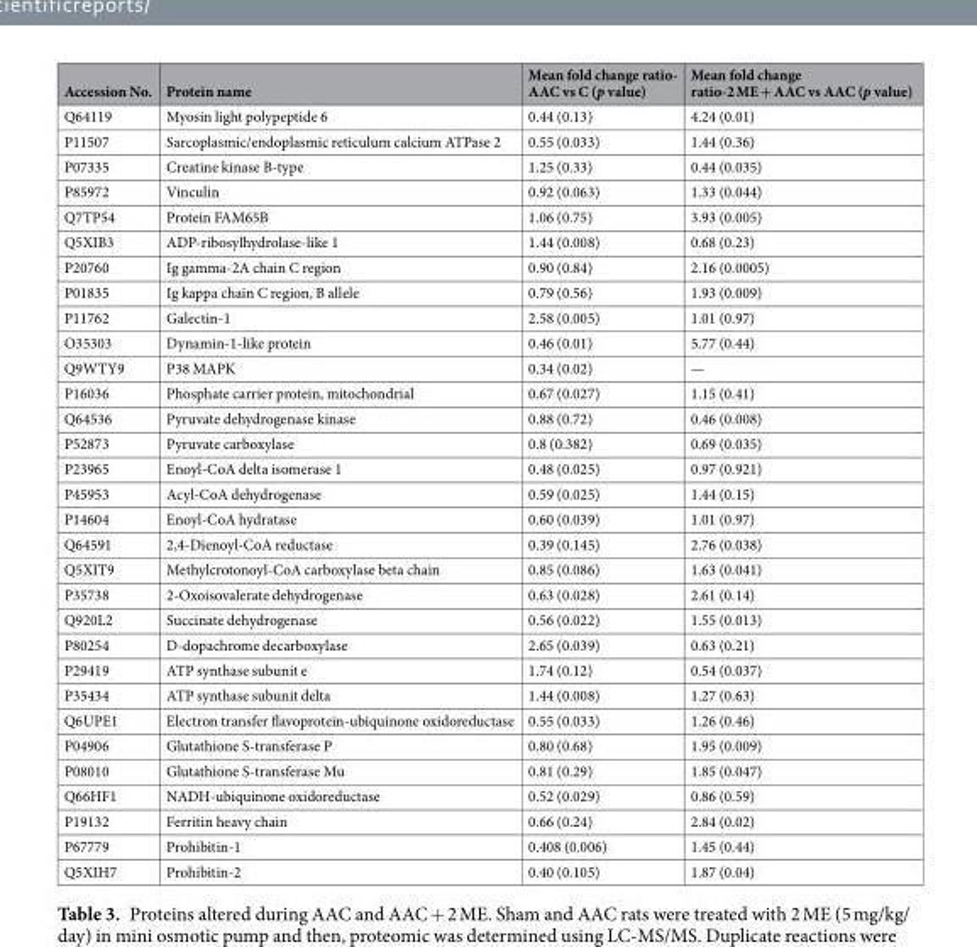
<table><thead><tr><td>Accession No.</td><td>Protein name</td><td>Mean fold change ratio- AAC vs C (p value)</td><td>Mean fold change ratio-2 ME + AAC vs AAC (p value)</td></tr></thead><tbody><tr><td>Q64119</td><td>Myosin light polypeptide 6</td><td>0.44 (0.13)</td><td>4.24 (0.01)</td></tr><tr><td>P11507</td><td>Sarcoplasmic/endoplasmic reticulum calcium ATPase 2</td><td>0.55 (0.033)</td><td>1.44 (0.36)</td></tr><tr><td>P07335</td><td>Creatine kinase B-type</td><td>1.25 (0.33)</td><td>0.44 (0.035)</td></tr><tr><td>P85972</td><td>Vinculin</td><td>0.92 (0.063)</td><td>1.33 (0.044)</td></tr><tr><td>Q7TP54</td><td>Protein FAM65B</td><td>1.06 (0.75)</td><td>3.93 (0.005)</td></tr><tr><td>Q5XIB3</td><td>ADP-ribosylhydrolase-like 1</td><td>1.44 (0.008)</td><td>0.68 (0.23)</td></tr><tr><td>P20760</td><td>Ig gamma-2A chain C region</td><td>0.90 (0.84)</td><td>2.16 (0.0005)</td></tr><tr><td>P01835</td><td>Ig kappa chain C region, B allele</td><td>0.79 (0.56)</td><td>1.93 (0.009)</td></tr><tr><td>P11762</td><td>Galectin-1</td><td>2.58 (0.005)</td><td>1.01 (0.97)</td></tr><tr><td>O35303</td><td>Dynamin-1-like protein</td><td>0.46 (0.01)</td><td>5.77 (0.44)</td></tr><tr><td>Q9WTY9</td><td>P38 MAPK</td><td>0.34 (0.02)</td><td>—</td></tr><tr><td>P16036</td><td>Phosphate carrier protein, mitochondrial</td><td>0.67 (0.027)</td><td>1.15 (0.41)</td></tr><tr><td>Q64536</td><td>Pyruvate dehydrogenase kinase</td><td>0.88 (0.72)</td><td>0.46 (0.008)</td></tr><tr><td>P52873</td><td>Pyruvate carboxylase</td><td>0.8 (0.382)</td><td>0.69 (0.035)</td></tr><tr><td>P23965</td><td>Enoyl-CoA delta isomerase 1</td><td>0.48 (0.025)</td><td>0.97 (0.921)</td></tr><tr><td>P45953</td><td>Acyl-CoA dehydrogenase</td><td>0.59 (0.025)</td><td>1.44 (0.15)</td></tr><tr><td>P14604</td><td>Enoyl-CoA hydratase</td><td>0.60 (0.039)</td><td>1.01 (0.97)</td></tr><tr><td>Q64591</td><td>2,4-Dienoyl-CoA reductase</td><td>0.39 (0.145)</td><td>2.76 (0.038)</td></tr><tr><td>Q5XIT9</td><td>Methylcrotonoyl-CoA carboxylase beta chain</td><td>0.85 (0.086)</td><td>1.63 (0.041)</td></tr><tr><td>P35738</td><td>2-Oxoisovalerate dehydrogenase</td><td>0.63 (0.028)</td><td>2.61 (0.14)</td></tr><tr><td>Q920L2</td><td>Succinate dehydrogenase</td><td>0.56 (0.022)</td><td>1.55 (0.013)</td></tr><tr><td>P80254</td><td>D-dopachrome decarboxylase</td><td>2.65 (0.039)</td><td>0.63 (0.21)</td></tr><tr><td>P29419</td><td>ATP synthase subunit e</td><td>1.74 (0.12)</td><td>0.54 (0.037)</td></tr><tr><td>P35434</td><td>ATP synthase subunit delta</td><td>1.44 (0.008)</td><td>1.27 (0.63)</td></tr><tr><td>Q6UPE1</td><td>Electron transfer flavoprotein-ubiquinone oxidoreductase</td><td>0.55 (0.033)</td><td>1.26 (0.46)</td></tr><tr><td>P04906</td><td>Glutathione S-transferase P</td><td>0.80 (0.68)</td><td>1.95 (0.009)</td></tr><tr><td>P08010</td><td>Glutathione S-transferase Mu</td><td>0.81 (0.29)</td><td>1.85 (0.047)</td></tr><tr><td>Q66HF1</td><td>NADH-ubiquinone oxidoreductase</td><td>0.52 (0.029)</td><td>0.86 (0.59)</td></tr><tr><td>P19132</td><td>Ferritin heavy chain</td><td>0.66 (0.24)</td><td>2.84 (0.02)</td></tr><tr><td>P67779</td><td>Prohibitin-1</td><td>0.408 (0.006)</td><td>1.45 (0.44)</td></tr><tr><td>Q5XIH7</td><td>Prohibitin-2</td><td>0.40 (0.105)</td><td>1.87 (0.04)</td></tr></tbody></table>